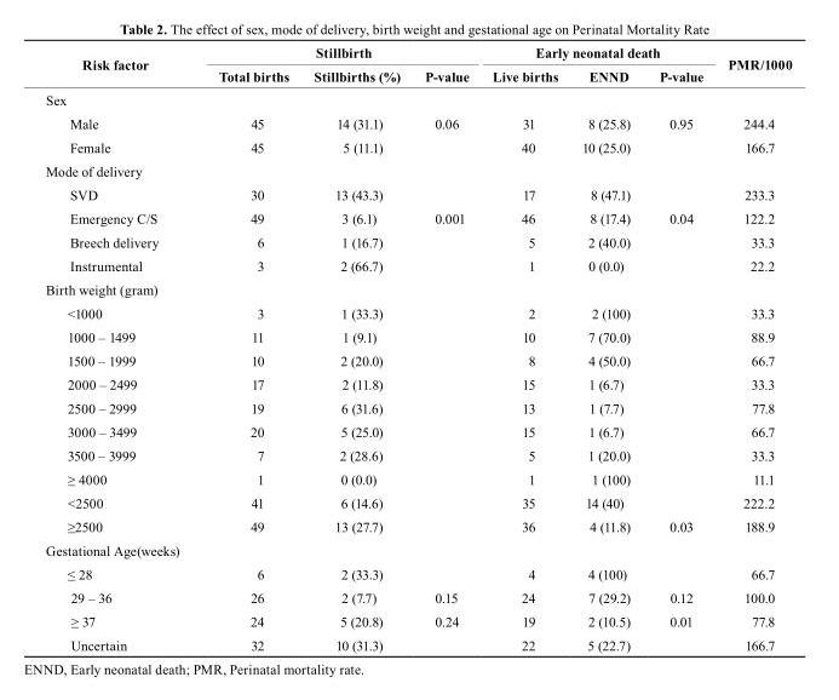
<table><thead><tr><td rowspan="2">risk factor</td><td colspan="3">stillbirth</td><td colspan="3">Early neonatal death</td><td rowspan="2">PMr/1000</td></tr><tr><td>total births</td><td>stillbirths (%)</td><td>P-value</td><td>live births</td><td>ENND</td><td>P-value</td></tr></thead><tbody><tr><td colspan="8">Sex</td></tr><tr><td>Male</td><td>45</td><td>14 (31.1)</td><td>0.06</td><td>31</td><td>8 (25.8)</td><td>0.95</td><td>244.4</td></tr><tr><td>Female</td><td>45</td><td>5 (11.1)</td><td></td><td>40</td><td>10 (25.0)</td><td></td><td>166.7</td></tr><tr><td colspan="8">Mode of delivery</td></tr><tr><td>SVD</td><td>30</td><td>13 (43.3)</td><td></td><td>17</td><td>8 (47.1)</td><td></td><td>233.3</td></tr><tr><td>Emergency C/S</td><td>49</td><td>3 (6.1)</td><td>0.001</td><td>46</td><td>8 (17.4)</td><td>0.04</td><td>122.2</td></tr><tr><td>Breech delivery</td><td>6</td><td>1 (16.7)</td><td></td><td>5</td><td>2 (40.0)</td><td></td><td>33.3</td></tr><tr><td>Instrumental</td><td>3</td><td>2 (66.7)</td><td></td><td>1</td><td>0 (0.0)</td><td></td><td>22.2</td></tr><tr><td colspan="8">Birth weight (gram)</td></tr><tr><td>&lt;1000</td><td>3</td><td>1 (33.3)</td><td></td><td>2</td><td>2 (100)</td><td></td><td>33.3</td></tr><tr><td>1000 – 1499</td><td>11</td><td>1 (9.1)</td><td></td><td>10</td><td>7 (70.0)</td><td></td><td>88.9</td></tr><tr><td>1500 – 1999</td><td>10</td><td>2 (20.0)</td><td></td><td>8</td><td>4 (50.0)</td><td></td><td>66.7</td></tr><tr><td>2000 – 2499</td><td>17</td><td>2 (11.8)</td><td></td><td>15</td><td>1 (6.7)</td><td></td><td>33.3</td></tr><tr><td>2500 – 2999</td><td>19</td><td>6 (31.6)</td><td></td><td>13</td><td>1 (7.7)</td><td></td><td>77.8</td></tr><tr><td>3000 – 3499</td><td>20</td><td>5 (25.0)</td><td></td><td>15</td><td>1 (6.7)</td><td></td><td>66.7</td></tr><tr><td>3500 – 3999</td><td>7</td><td>2 (28.6)</td><td></td><td>5</td><td>1 (20.0)</td><td></td><td>33.3</td></tr><tr><td>≥ 4000</td><td>1</td><td>0 (0.0)</td><td></td><td>1</td><td>1 (100)</td><td></td><td>11.1</td></tr><tr><td>&lt;2500</td><td>41</td><td>6 (14.6)</td><td></td><td>35</td><td>14 (40)</td><td></td><td>222.2</td></tr><tr><td>≥2500</td><td>49</td><td>13 (27.7)</td><td></td><td>36</td><td>4 (11.8)</td><td>0.03</td><td>188.9</td></tr><tr><td colspan="8">Gestational Age(weeks)</td></tr><tr><td>≤ 28</td><td>6</td><td>2 (33.3)</td><td></td><td>4</td><td>4 (100)</td><td></td><td>66.7</td></tr><tr><td>29 – 36</td><td>26</td><td>2 (7.7)</td><td>0.15</td><td>24</td><td>7 (29.2)</td><td>0.12</td><td>100.0</td></tr><tr><td>≥ 37</td><td>24</td><td>5 (20.8)</td><td>0.24</td><td>19</td><td>2 (10.5)</td><td>0.01</td><td>77.8</td></tr><tr><td>Uncertain</td><td>32</td><td>10 (31.3)</td><td></td><td>22</td><td>5 (22.7)</td><td></td><td>166.7</td></tr></tbody></table>